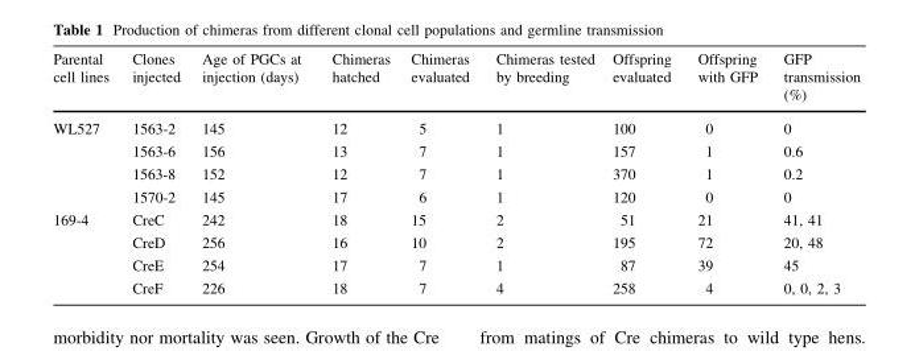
<table><thead><tr><td>Parental cell lines</td><td>Clones injected</td><td>Age of PGCs at injection (days)</td><td>Chimeras hatched</td><td>Chimeras evaluated</td><td>Chimeras tested by breeding</td><td>Offspring evaluated</td><td>Offspring with GFP</td><td>GFP transmission (%)</td></tr></thead><tbody><tr><td rowspan="4">WL527</td><td>1563-2</td><td>145</td><td>12</td><td>5</td><td>1</td><td>100</td><td>0</td><td>0</td></tr><tr><td>1563-6</td><td>156</td><td>13</td><td>7</td><td>1</td><td>157</td><td>1</td><td>0.6</td></tr><tr><td>1563-8</td><td>152</td><td>12</td><td>7</td><td>1</td><td>370</td><td>1</td><td>0.2</td></tr><tr><td>1570-2</td><td>145</td><td>17</td><td>6</td><td>1</td><td>120</td><td>0</td><td>0</td></tr><tr><td rowspan="4">169-4</td><td>CreC</td><td>242</td><td>18</td><td>15</td><td>2</td><td>51</td><td>21</td><td>41, 41</td></tr><tr><td>CreD</td><td>256</td><td>16</td><td>10</td><td>2</td><td>195</td><td>72</td><td>20, 48</td></tr><tr><td>CreE</td><td>254</td><td>17</td><td>7</td><td>1</td><td>87</td><td>39</td><td>45</td></tr><tr><td>CreF</td><td>226</td><td>18</td><td>7</td><td>4</td><td>258</td><td>4</td><td>0, 0, 2, 3</td></tr></tbody></table>